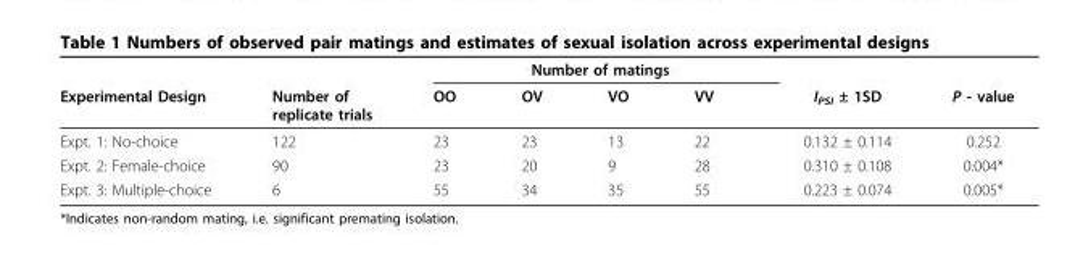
<table><thead><tr><td rowspan="2">Experimental Design</td><td rowspan="2">Number of replicate trials</td><td colspan="4">Number of matings</td><td rowspan="2">I<sub>PSI</sub> ± 1SD</td><td rowspan="2">P - value</td></tr><tr><td>OO</td><td>OV</td><td>VO</td><td>VV</td></tr></thead><tbody><tr><td>Expt. 1: No-choice</td><td>122</td><td>23</td><td>23</td><td>13</td><td>22</td><td>0.132 ± 0.114</td><td>0.252</td></tr><tr><td>Expt. 2: Female-choice</td><td>90</td><td>23</td><td>20</td><td>9</td><td>28</td><td>0.310 ± 0.108</td><td>0.004*</td></tr><tr><td>Expt. 3: Multiple-choice</td><td>6</td><td>55</td><td>34</td><td>35</td><td>55</td><td>0.223 ± 0.074</td><td>0.005*</td></tr></tbody></table>